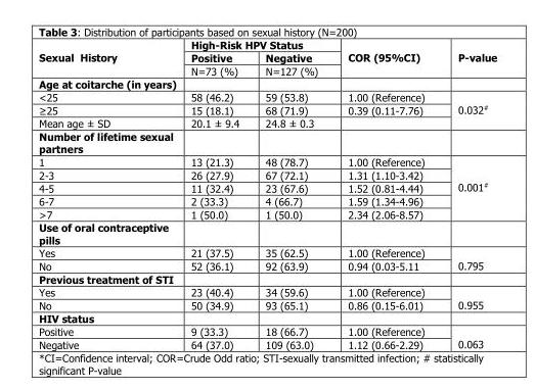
<table><thead><tr><td rowspan="3">Sexual History</td><td colspan="2">High-Risk HPV Status</td><td rowspan="3">COR (95%CI)</td><td rowspan="3">P-value</td></tr><tr><td rowspan="2">Positive N=73 (%)</td><td rowspan="2">Negative N=127 (%)</td></tr><tr></tr></thead><tbody><tr><td colspan="5">Age at coitarche (in years)</td></tr><tr><td>&lt;25</td><td>58 (46.2)</td><td>59 (53.8)</td><td>1.00 (Reference)</td><td rowspan="3">0.032<sup>#</sup></td></tr><tr><td>≥25</td><td>15 (18.1)</td><td>68 (71.9)</td><td>0.39 (0.11-7.76)</td></tr><tr><td>Mean age ± SD</td><td>20.1 ± 9.4</td><td>24.8 ± 0.3</td><td></td></tr><tr><td colspan="5">Number of lifetime sexual partners</td></tr><tr><td>1</td><td>13 (21.3)</td><td>48 (78.7)</td><td>1.00 (Reference)</td><td rowspan="5">0.001<sup>#</sup></td></tr><tr><td>2-3</td><td>26 (27.9)</td><td>67 (72.1)</td><td>1.31 (1.10-3.42)</td></tr><tr><td>4-5</td><td>11 (32.4)</td><td>23 (67.6)</td><td>1.52 (0.81-4.44)</td></tr><tr><td>6-7</td><td>2 (33.3)</td><td>4 (66.7)</td><td>1.59 (1.34-4.96)</td></tr><tr><td>&gt;7</td><td>1 (50.0)</td><td>1 (50.0)</td><td>2.34 (2.06-8.57)</td></tr><tr><td colspan="5">Use of oral contraceptive pills</td></tr><tr><td>Yes</td><td>21 (37.5)</td><td>35 (62.5)</td><td>1.00 (Reference)</td><td rowspan="2">0.795</td></tr><tr><td>No</td><td>52 (36.1)</td><td>92 (63.9)</td><td>0.94 (0.03-5.11</td></tr><tr><td colspan="5">Previous treatment of STI</td></tr><tr><td>Yes</td><td>23 (40.4)</td><td>34 (59.6)</td><td>1.00 (Reference)</td><td rowspan="2">0.955</td></tr><tr><td>No</td><td>50 (34.9)</td><td>93 (65.1)</td><td>0.86 (0.15-6.01)</td></tr><tr><td colspan="5">HIV status</td></tr><tr><td>Positive</td><td>9 (33.3)</td><td>18 (66.7)</td><td>1.00 (Reference)</td><td rowspan="2">0.063</td></tr><tr><td>Negative</td><td>64 (37.0)</td><td>109 (63.0)</td><td>1.12 (0.66-2.29)</td></tr></tbody></table>